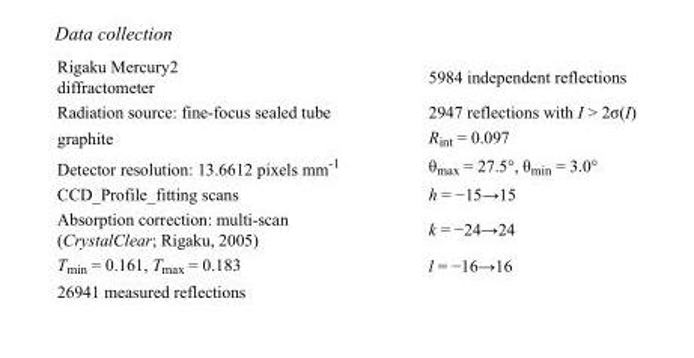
<table><tbody><tr><td>Rigaku Mercury2 diffractometer</td><td>5984 independent reflections</td></tr><tr><td>Radiation source: fine-focus sealed tube</td><td>2947 reflections with I &gt; 2σ(I)</td></tr><tr><td>graphite</td><td>R<sub>int</sub> = 0.097</td></tr><tr><td>Detector resolution: 13.6612 pixels mm<sup>-1</sup></td><td>θ<sub>max</sub> = 27.5°, θ<sub>min</sub> = 3.0°</td></tr><tr><td>CCD_Profile_fitting scans</td><td>h = −15→15</td></tr><tr><td>Absorption correction: multi-scan (CrystalClear; Rigaku, 2005)</td><td>k = −24→24</td></tr><tr><td>T<sub>min</sub> = 0.161, T<sub>max</sub> = 0.183</td><td>l = −16→16</td></tr><tr><td>26941 measured reflections</td><td></td></tr></tbody></table>